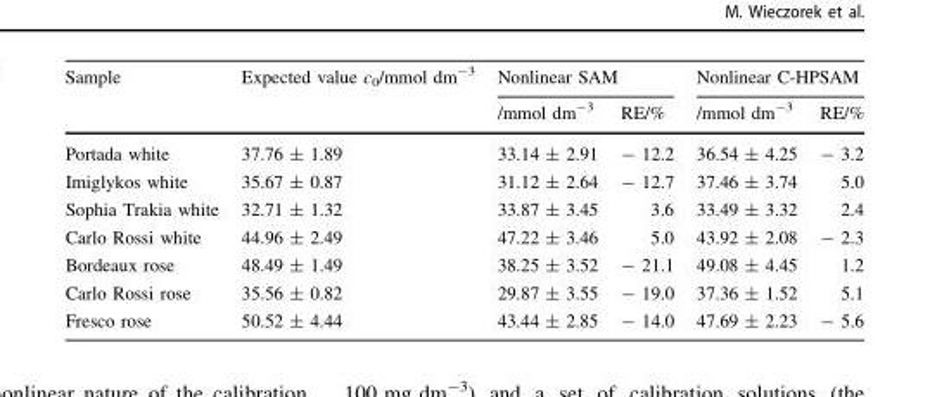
<table><thead><tr><td rowspan="2">Sample</td><td rowspan="2">Expected value c<sub>0</sub>/mmol dm<sup>-3</sup></td><td colspan="2">Nonlinear SAM</td><td colspan="2">Nonlinear C-HPSAM</td></tr><tr><td>/mmol dm<sup>-3</sup></td><td>RE/%</td><td>/mmol dm<sup>-3</sup></td><td>RE/%</td></tr></thead><tbody><tr><td>Portada white</td><td>37.76 ± 1.89</td><td>33.14 ± 2.91</td><td>- 12.2</td><td>36.54 ± 4.25</td><td>- 3.2</td></tr><tr><td>Imiglykos white</td><td>35.67 ± 0.87</td><td>31.12 ± 2.64</td><td>- 12.7</td><td>37.46 ± 3.74</td><td>5.0</td></tr><tr><td>Sophia Trakia white</td><td>32.71 ± 1.32</td><td>33.87 ± 3.45</td><td>3.6</td><td>33.49 ± 3.32</td><td>2.4</td></tr><tr><td>Carlo Rossi white</td><td>44.96 ± 2.49</td><td>47.22 ± 3.46</td><td>5.0</td><td>43.92 ± 2.08</td><td>- 2.3</td></tr><tr><td>Bordeaux rose</td><td>48.49 ± 1.49</td><td>38.25 ± 3.52</td><td>- 21.1</td><td>49.08 ± 4.45</td><td>1.2</td></tr><tr><td>Carlo Rossi rose</td><td>35.56 ± 0.82</td><td>29.87 ± 3.55</td><td>- 19.0</td><td>37.36 ± 1.52</td><td>5.1</td></tr><tr><td>Fresco rose</td><td>50.52 ± 4.44</td><td>43.44 ± 2.85</td><td>- 14.0</td><td>47.69 ± 2.23</td><td>- 5.6</td></tr></tbody></table>